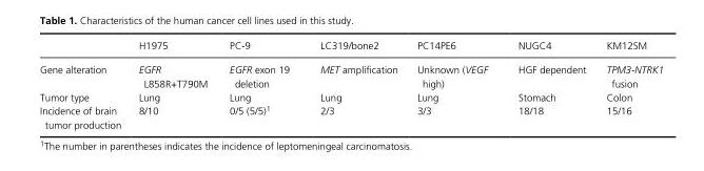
<table><thead><tr><td></td><td>H1975</td><td>PC- 9</td><td>LC319/bone2</td><td>PC14PE6</td><td>NUGC4</td><td>KM12SM</td></tr></thead><tbody><tr><td>Gene alteration</td><td>EGFR L858R+T790M</td><td>EGFR exon 19 deletion</td><td>MET amplification</td><td>Unknown (VEGF high)</td><td>HGF dependent</td><td>TPM3-NTRK1 fusion</td></tr><tr><td>Tumor type</td><td>Lung</td><td>Lung</td><td>Lung</td><td>Lung</td><td>Stomach</td><td>Colon</td></tr><tr><td>Incidence of brain tumor production</td><td>8/10</td><td>0/5 (5/5)1</td><td>2/3</td><td>3/3</td><td>18/18</td><td>15/16</td></tr></tbody></table>